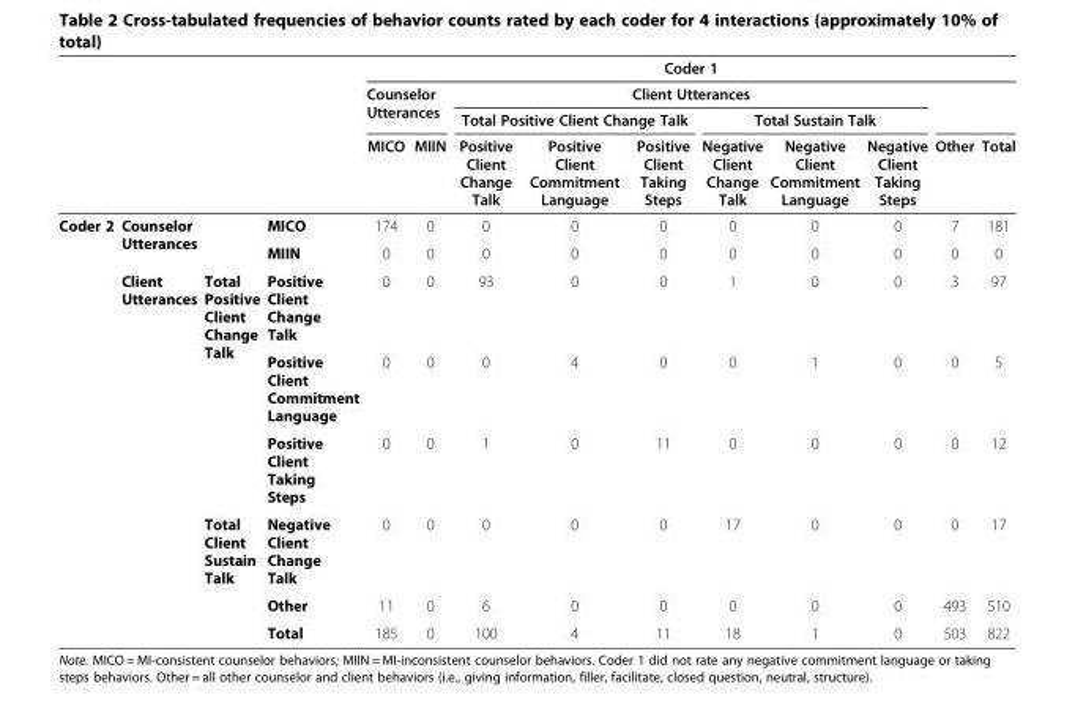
<table><thead><tr><td rowspan="4"></td><td rowspan="4"></td><td rowspan="4"></td><td rowspan="4"></td><td colspan="10">Coder 1</td></tr><tr><td rowspan="2" colspan="2">Counselor Utterances</td><td colspan="6">Client Utterances</td><td rowspan="3">Other</td><td rowspan="3">Total</td></tr><tr><td colspan="3">Total Positive Client Change Talk</td><td colspan="3">Total Sustain Talk</td></tr><tr><td>MICO</td><td>MIIN</td><td>Positive Client Change Talk</td><td>Positive Client Commitment Language</td><td>Positive Client Taking Steps</td><td>Negative Client Change Talk</td><td>Negative Client Commitment Language</td><td>Negative Client Taking Steps</td></tr></thead><tbody><tr><td rowspan="8">Coder 2</td><td rowspan="2" colspan="2">Counselor Utterances</td><td>MICO</td><td>174</td><td>0</td><td>0</td><td>0</td><td>0</td><td>0</td><td>0</td><td>0</td><td>7</td><td>181</td></tr><tr><td>MIIN</td><td>0</td><td>0</td><td>0</td><td>0</td><td>0</td><td>0</td><td>0</td><td>0</td><td>0</td><td>0</td></tr><tr><td rowspan="4">Client Utterances</td><td rowspan="3">Total Positive Client Change Talk</td><td>Positive Client Change Talk</td><td>0</td><td>0</td><td>93</td><td>0</td><td>0</td><td>1</td><td>0</td><td>0</td><td>3</td><td>97</td></tr><tr><td>Positive Client Commitment Language</td><td>0</td><td>0</td><td>0</td><td>4</td><td>0</td><td>0</td><td>1</td><td>0</td><td>0</td><td>5</td></tr><tr><td>Positive Client Taking Steps</td><td>0</td><td>0</td><td>1</td><td>0</td><td>11</td><td>0</td><td>0</td><td>0</td><td>0</td><td>12</td></tr><tr><td>Total Client Sustain Talk</td><td>Negative Client Change Talk</td><td>0</td><td>0</td><td>0</td><td>0</td><td>0</td><td>17</td><td>0</td><td>0</td><td>0</td><td>17</td></tr><tr><td></td><td></td><td>Other</td><td>11</td><td>0</td><td>6</td><td>0</td><td>0</td><td>0</td><td>0</td><td>0</td><td>493</td><td>510</td></tr><tr><td></td><td></td><td>Total</td><td>185</td><td>0</td><td>100</td><td>4</td><td>11</td><td>18</td><td>1</td><td>0</td><td>503</td><td>822</td></tr></tbody></table>